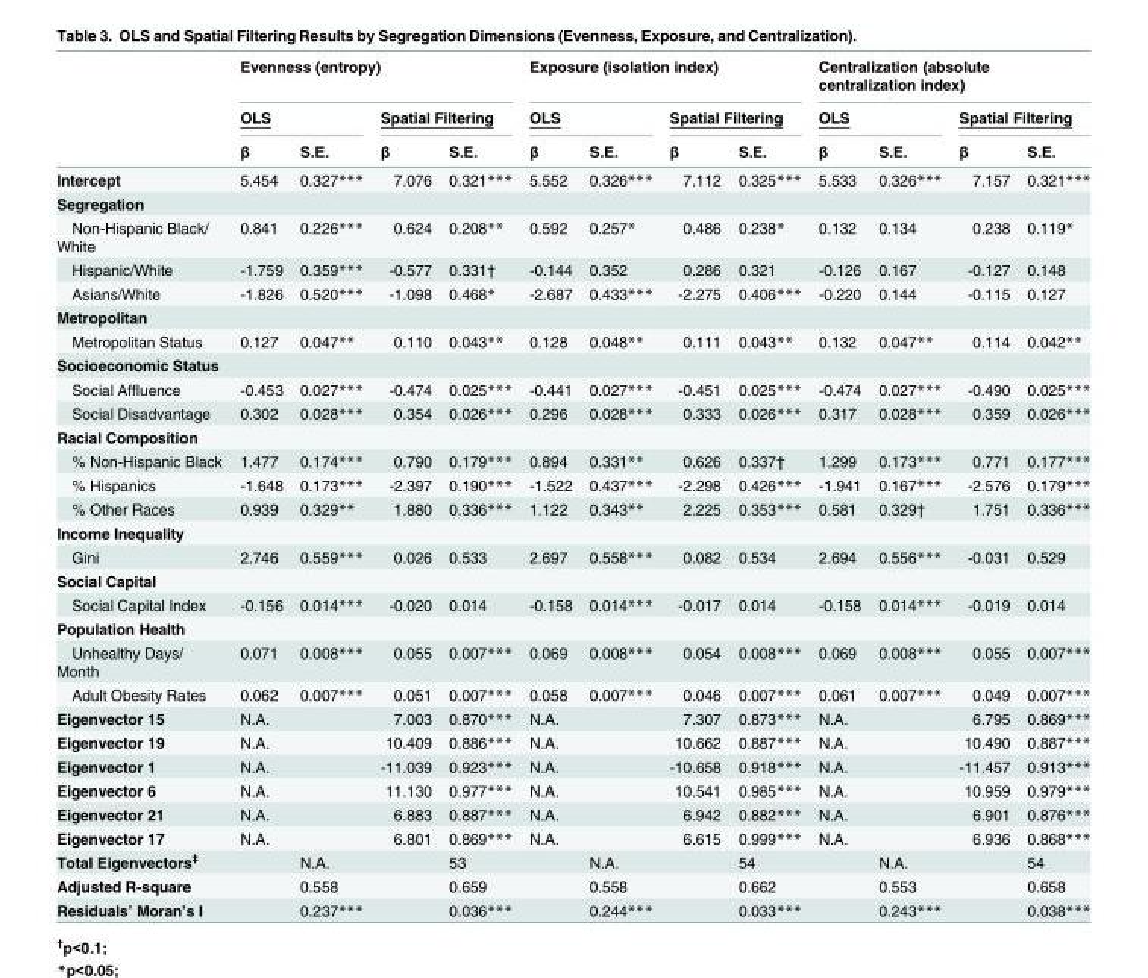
<table><thead><tr><td rowspan="3"></td><td colspan="4">Evenness (entropy)</td><td colspan="4">Exposure (isolation index)</td><td colspan="4">Centralization (absolute centralization index)</td></tr><tr><td colspan="2">OLS</td><td colspan="2">Spatial Filtering</td><td colspan="2">OLS</td><td colspan="2">Spatial Filtering</td><td colspan="2">OLS</td><td colspan="2">Spatial Filtering</td></tr><tr><td>β</td><td>S.E.</td><td>β</td><td>S.E.</td><td>β</td><td>S.E.</td><td>β</td><td>S.E.</td><td>β</td><td>S.E.</td><td>β</td><td>S.E.</td></tr></thead><tbody><tr><td>Intercept</td><td>5.454</td><td>0.327***</td><td>7.076</td><td>0.321***</td><td>5.552</td><td>0.326***</td><td>7.112</td><td>0.325***</td><td>5.533</td><td>0.326***</td><td>7.157</td><td>0.321***</td></tr><tr><td colspan="13">Segregation</td></tr><tr><td>Non-Hispanic Black/ White</td><td>0.841</td><td>0.226***</td><td>0.624</td><td>0.208**</td><td>0.592</td><td>0.257*</td><td>0.486</td><td>0.238*</td><td>0.132</td><td>0.134</td><td>0.238</td><td>0.119*</td></tr><tr><td>Hispanic/White</td><td>-1.759</td><td>0.359***</td><td>-0.577</td><td>0.331†</td><td>-0.144</td><td>0.352</td><td>0.286</td><td>0.321</td><td>-0.126</td><td>0.167</td><td>-0.127</td><td>0.148</td></tr><tr><td>Asians/White</td><td>-1.826</td><td>0.520***</td><td>-1.098</td><td>0.468*</td><td>-2.687</td><td>0.433***</td><td>-2.275</td><td>0.406***</td><td>-0.220</td><td>0.144</td><td>-0.115</td><td>0.127</td></tr><tr><td colspan="13">Metropolitan</td></tr><tr><td>Metropolitan Status</td><td>0.127</td><td>0.047**</td><td>0.110</td><td>0.043**</td><td>0.128</td><td>0.048**</td><td>0.111</td><td>0.043**</td><td>0.132</td><td>0.047**</td><td>0.114</td><td>0.042**</td></tr><tr><td colspan="13">Socioeconomic Status</td></tr><tr><td>Social Affluence</td><td>-0.453</td><td>0.027***</td><td>-0.474</td><td>0.025***</td><td>-0.441</td><td>0.027***</td><td>-0.451</td><td>0.025***</td><td>-0.474</td><td>0.027***</td><td>-0.490</td><td>0.025***</td></tr><tr><td>Social Disadvantage</td><td>0.302</td><td>0.028***</td><td>0.354</td><td>0.026***</td><td>0.296</td><td>0.028***</td><td>0.333</td><td>0.026***</td><td>0.317</td><td>0.028***</td><td>0.359</td><td>0.026***</td></tr><tr><td colspan="13">Racial Composition</td></tr><tr><td>% Non-Hispanic Black</td><td>1.477</td><td>0.174***</td><td>0.790</td><td>0.179***</td><td>0.894</td><td>0.331**</td><td>0.626</td><td>0.337†</td><td>1.299</td><td>0.173***</td><td>0.771</td><td>0.177***</td></tr><tr><td>% Hispanics</td><td>-1.648</td><td>0.173***</td><td>-2.397</td><td>0.190***</td><td>-1.522</td><td>0.437***</td><td>-2.298</td><td>0.426***</td><td>-1.941</td><td>0.167***</td><td>-2.576</td><td>0.179***</td></tr><tr><td>% Other Races</td><td>0.939</td><td>0.329**</td><td>1.880</td><td>0.336***</td><td>1.122</td><td>0.343**</td><td>2.225</td><td>0.353***</td><td>0.581</td><td>0.329†</td><td>1.751</td><td>0.336***</td></tr><tr><td colspan="13">Income Inequality</td></tr><tr><td>Gini</td><td>2.746</td><td>0.559***</td><td>0.026</td><td>0.533</td><td>2.697</td><td>0.558***</td><td>0.082</td><td>0.534</td><td>2.694</td><td>0.556***</td><td>-0.031</td><td>0.529</td></tr><tr><td colspan="13">Social Capital</td></tr><tr><td>Social Capital Index</td><td>-0.156</td><td>0.014***</td><td>-0.020</td><td>0.014</td><td>-0.158</td><td>0.014***</td><td>-0.017</td><td>0.014</td><td>-0.158</td><td>0.014***</td><td>-0.019</td><td>0.014</td></tr><tr><td colspan="13">Population Health</td></tr><tr><td>Unhealthy Days/ Month</td><td>0.071</td><td>0.008***</td><td>0.055</td><td>0.007***</td><td>0.069</td><td>0.008***</td><td>0.054</td><td>0.008***</td><td>0.069</td><td>0.008***</td><td>0.055</td><td>0.007***</td></tr><tr><td>Adult Obesity Rates</td><td>0.062</td><td>0.007***</td><td>0.051</td><td>0.007***</td><td>0.058</td><td>0.007***</td><td>0.046</td><td>0.007***</td><td>0.061</td><td>0.007***</td><td>0.049</td><td>0.007***</td></tr><tr><td>Eigenvector 15</td><td>N.A.</td><td></td><td>7.003</td><td>0.870***</td><td>N.A.</td><td></td><td>7.307</td><td>0.873***</td><td>N.A.</td><td></td><td>6.795</td><td>0.869***</td></tr><tr><td>Eigenvector 19</td><td>N.A.</td><td></td><td>10.409</td><td>0.886***</td><td>N.A.</td><td></td><td>10.662</td><td>0.887***</td><td>N.A.</td><td></td><td>10.490</td><td>0.887***</td></tr><tr><td>Eigenvector 1</td><td>N.A.</td><td></td><td>-11.039</td><td>0.923***</td><td>N.A.</td><td></td><td>-10.658</td><td>0.918***</td><td>N.A.</td><td></td><td>-11.457</td><td>0.913***</td></tr><tr><td>Eigenvector 6</td><td>N.A.</td><td></td><td>11.130</td><td>0.977***</td><td>N.A.</td><td></td><td>10.541</td><td>0.985***</td><td>N.A.</td><td></td><td>10.959</td><td>0.979***</td></tr><tr><td>Eigenvector 21</td><td>N.A.</td><td></td><td>6.883</td><td>0.887***</td><td>N.A.</td><td></td><td>6.942</td><td>0.882***</td><td>N.A.</td><td></td><td>6.901</td><td>0.876***</td></tr><tr><td>Eigenvector 17</td><td>N.A.</td><td></td><td>6.801</td><td>0.869***</td><td>N.A.</td><td></td><td>6.615</td><td>0.999***</td><td>N.A.</td><td></td><td>6.936</td><td>0.868***</td></tr><tr><td>Total Eigenvectors<sup>‡</sup></td><td></td><td>N.A.</td><td></td><td>53</td><td></td><td>N.A.</td><td></td><td>54</td><td></td><td>N.A.</td><td></td><td>54</td></tr><tr><td>Adjusted R-square</td><td></td><td>0.558</td><td></td><td>0.659</td><td></td><td>0.558</td><td></td><td>0.662</td><td></td><td>0.553</td><td></td><td>0.658</td></tr><tr><td>Residuals’ Moran’s I</td><td></td><td>0.237***</td><td></td><td>0.036***</td><td></td><td>0.244***</td><td></td><td>0.033***</td><td></td><td>0.243***</td><td></td><td>0.038***</td></tr></tbody></table>